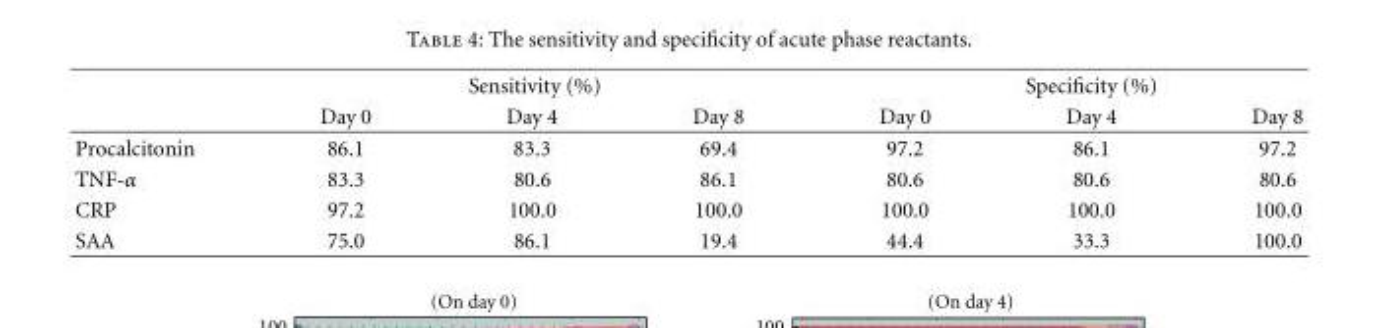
<table><thead><tr><td rowspan="2"></td><td colspan="3">Sensitivity (%)</td><td colspan="3">Specificity (%)</td></tr><tr><td>Day 0</td><td>Day 4</td><td>Day 8</td><td>Day 0</td><td>Day 4</td><td>Day 8</td></tr></thead><tbody><tr><td>Procalcitonin</td><td>86.1</td><td>83.3</td><td>69.4</td><td>97.2</td><td>86.1</td><td>97.2</td></tr><tr><td>TNF-α</td><td>83.3</td><td>80.6</td><td>86.1</td><td>80.6</td><td>80.6</td><td>80.6</td></tr><tr><td>CRP</td><td>97.2</td><td>100.0</td><td>100.0</td><td>100.0</td><td>100.0</td><td>100.0</td></tr><tr><td>SAA</td><td>75.0</td><td>86.1</td><td>19.4</td><td>44.4</td><td>33.3</td><td>100.0</td></tr></tbody></table>